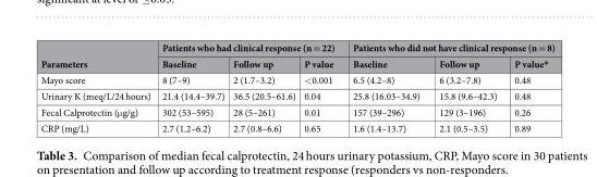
<table><thead><tr><td rowspan="2">Parameters</td><td colspan="3">Patients who had clinical response (n = 22)</td><td colspan="3">Patients who did not have clinical response (n = 8)</td></tr><tr><td>Baseline</td><td>Follow up</td><td>P value</td><td>Baseline</td><td>Follow up</td><td>P value*</td></tr></thead><tbody><tr><td>Mayo score</td><td>8 (7–9)</td><td>2 (1.7–3.2)</td><td>&lt;0.001</td><td>6.5 (4.2–8)</td><td>6 (3.2–7.8)</td><td>0.48</td></tr><tr><td>Urinary K (meq/L/24 hours)</td><td>21.4 (14.4–39.7)</td><td>36.5 (20.5–61.6)</td><td>0.04</td><td>25.8 (16.03–34.9)</td><td>15.8 (9.6–42.3)</td><td>0.48</td></tr><tr><td>Fecal Calprotectin (μg/g)</td><td>302 (53–595)</td><td>28 (5–261)</td><td>0.01</td><td>157 (39–296)</td><td>129 (3–196)</td><td>0.26</td></tr><tr><td>CRP (mg/L)</td><td>2.7 (1.2–6.2)</td><td>2.7 (0.8–6.6)</td><td>0.65</td><td>1.6 (1.4–13.7)</td><td>2.1 (0.5–3.5)</td><td>0.89</td></tr></tbody></table>